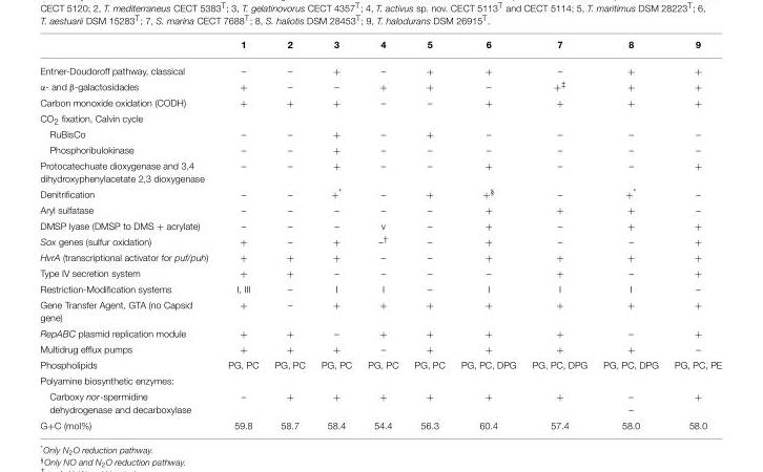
<table><thead><tr><td></td><td>1</td><td>2</td><td>3</td><td>4</td><td>5</td><td>6</td><td>7</td><td>8</td><td>9</td></tr></thead><tbody><tr><td>Entner-Doudoroff pathway, classical</td><td>–</td><td>–</td><td>+</td><td>–</td><td>+</td><td>+</td><td>–</td><td>+</td><td>+</td></tr><tr><td>α- and β-galactosidades</td><td>+</td><td>–</td><td>–</td><td>+</td><td>+</td><td>–</td><td>+<sup>‡</sup></td><td>+</td><td>+</td></tr><tr><td>Carbon monoxide oxidation (CODH)</td><td>+</td><td>+</td><td>+</td><td>–</td><td>–</td><td>+</td><td>+</td><td>+</td><td>+</td></tr><tr><td colspan="10">CO<sub>2</sub> fixation, Calvin cycle</td></tr><tr><td>RuBisCo</td><td>–</td><td>–</td><td>+</td><td>–</td><td>+</td><td>–</td><td>–</td><td>–</td><td>–</td></tr><tr><td>Phosphoribulokinase</td><td>–</td><td>–</td><td>+</td><td>–</td><td>–</td><td>–</td><td>–</td><td>–</td><td>–</td></tr><tr><td>Protocatechuate dioxygenase and 3,4 dihydroxyphenylacetate 2,3 dioxygenase</td><td>–</td><td>–</td><td>+</td><td>–</td><td>–</td><td>+</td><td>–</td><td>–</td><td>+</td></tr><tr><td>Denitrification</td><td>–</td><td>–</td><td>+*</td><td>–</td><td>+</td><td>+<sup>§</sup></td><td>–</td><td>+*</td><td>–</td></tr><tr><td>Aryl sulfatase</td><td>–</td><td>–</td><td>–</td><td>–</td><td>–</td><td>+</td><td>+</td><td>+</td><td>–</td></tr><tr><td>DMSP lyase (DMSP to DMS + acrylate)</td><td>–</td><td>–</td><td>–</td><td>v</td><td>–</td><td>+</td><td>–</td><td>+</td><td>+</td></tr><tr><td>Sox genes (sulfur oxidation)</td><td>+</td><td>–</td><td>+</td><td>–<sup>†</sup></td><td>–</td><td>+</td><td>–</td><td>–</td><td>+</td></tr><tr><td>HvrA (transcriptional activator for puf/puh)</td><td>+</td><td>+</td><td>+</td><td>–</td><td>–</td><td>+</td><td>+</td><td>+</td><td>+</td></tr><tr><td>Type IV secretion system</td><td>+</td><td>+</td><td>–</td><td>–</td><td>–</td><td>–</td><td>+</td><td>–</td><td>+</td></tr><tr><td>Restriction-Modification systems</td><td>I, III</td><td>–</td><td>I</td><td>I</td><td>–</td><td>I</td><td>I</td><td>I</td><td>–</td></tr><tr><td>Gene Transfer Agent, GTA (no Capsid gene)</td><td>+</td><td>–</td><td>+</td><td>+</td><td>+</td><td>+</td><td>+</td><td>+</td><td>+</td></tr><tr><td>RepABC plasmid replication module</td><td>+</td><td>+</td><td>–</td><td>+</td><td>+</td><td>+</td><td>+</td><td>–</td><td>+</td></tr><tr><td>Multidrug efflux pumps</td><td>+</td><td>+</td><td>+</td><td>–</td><td>+</td><td>+</td><td>+</td><td>+</td><td>–</td></tr><tr><td>Phospholipids</td><td>PG, PC</td><td>PG, PC</td><td>PG, PC</td><td>PG, PC</td><td>PG, PC</td><td>PG, PC, DPG</td><td>PG, PC, DPG</td><td>PG, PC, DPG</td><td>PG, PC, PE</td></tr><tr><td colspan="10">Polyamine biosynthetic enzymes:</td></tr><tr><td>Carboxy nor-spermidine</td><td>–</td><td>+</td><td>+</td><td>+</td><td>+</td><td>+</td><td>+</td><td>–</td><td>+</td></tr><tr><td>dehydrogenase and decarboxylase</td><td></td><td></td><td></td><td></td><td></td><td></td><td></td><td>–</td><td></td></tr><tr><td>G+C (mol%)</td><td>59.8</td><td>58.7</td><td>58.4</td><td>54.4</td><td>56.3</td><td>60.4</td><td>57.4</td><td>58.0</td><td>58.0</td></tr></tbody></table>